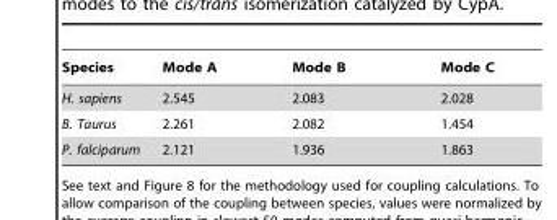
<table><thead><tr><td>Species</td><td>Mode A</td><td>Mode B</td><td>Mode C</td></tr></thead><tbody><tr><td>H. sapiens</td><td>2.545</td><td>2.083</td><td>2.028</td></tr><tr><td>B. Taurus</td><td>2.261</td><td>2.082</td><td>1.454</td></tr><tr><td>P. falciparum</td><td>2.121</td><td>1.936</td><td>1.863</td></tr></tbody></table>